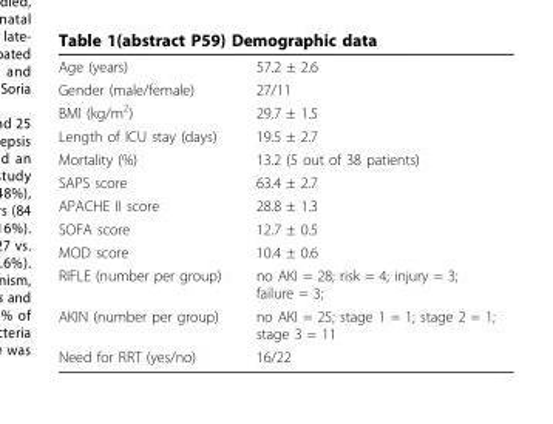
<table><tbody><tr><td>Age (years)</td><td>57.2 ± 2.6</td></tr><tr><td>Gender (male/female)</td><td>27/11</td></tr><tr><td>BMI (kg/m<sup>2</sup>)</td><td>29.7 ± 1.5</td></tr><tr><td>Length of ICU stay (days)</td><td>19.5 ± 2.7</td></tr><tr><td>Mortality (%)</td><td>13.2 (5 out of 38 patients)</td></tr><tr><td>SAPS score</td><td>63.4 ± 2.7</td></tr><tr><td>APACHE II score</td><td>28.8 ± 1.3</td></tr><tr><td>SOFA score</td><td>12.7 ± 0.5</td></tr><tr><td>MOD score</td><td>10.4 ± 0.6</td></tr><tr><td>RIFLE (number per group)</td><td>no AKI = 28; risk = 4; injury = 3; failure = 3;</td></tr><tr><td>AKIN (number per group)</td><td>no AKI = 25; stage 1 = 1; stage 2 = 1; stage 3 = 11</td></tr><tr><td>Need for RRT (yes/no)</td><td>16/22</td></tr></tbody></table>